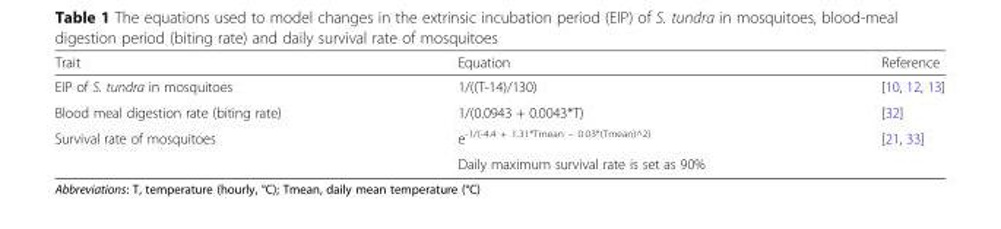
<table><thead><tr><td>Trait</td><td>Equation</td><td>Reference</td></tr></thead><tbody><tr><td>EIP of S. tundra in mosquitoes</td><td>1/((T-14)/130)</td><td>[10, 12, 13]</td></tr><tr><td>Blood meal digestion rate (biting rate)</td><td>1/(0.0943 + 0.0043*T)</td><td>[32]</td></tr><tr><td rowspan="2">Survival rate of mosquitoes</td><td>e<sup>-1/(-4.4 + 1.31*Tmean – 0.03*(Tmean)^2)</sup></td><td rowspan="2">[21, 33]</td></tr><tr><td>Daily maximum survival rate is set as 90%</td></tr></tbody></table>